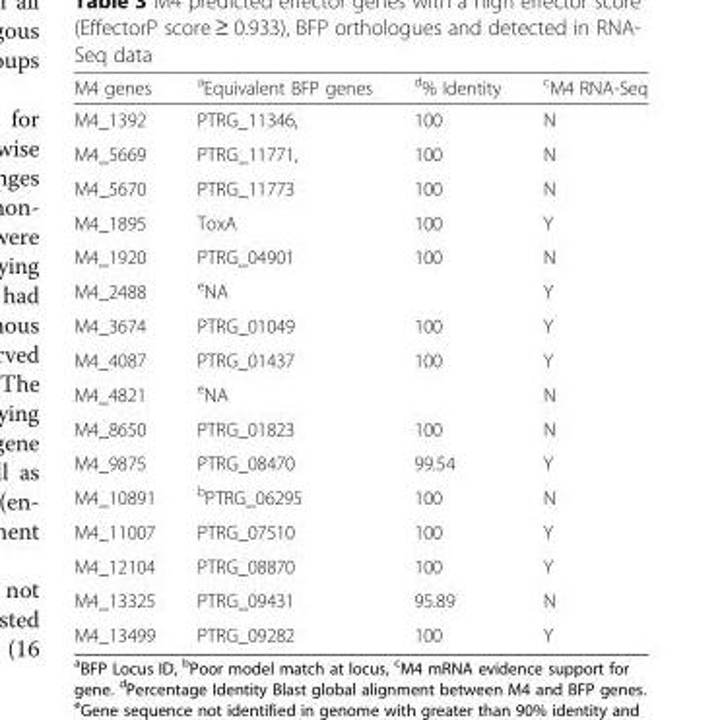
<table><thead><tr><td>M4 genes</td><td><sup>a</sup>Equivalent BFP genes</td><td><sup>d</sup>% Identity</td><td><sup>c</sup>M4 RNA-Seq</td></tr></thead><tbody><tr><td>M4_1392</td><td>PTRG_11346,</td><td>100</td><td>N</td></tr><tr><td>M4_5669</td><td>PTRG_11771,</td><td>100</td><td>N</td></tr><tr><td>M4_5670</td><td>PTRG_11773</td><td>100</td><td>N</td></tr><tr><td>M4_1895</td><td>ToxA</td><td>100</td><td>Y</td></tr><tr><td>M4_1920</td><td>PTRG_04901</td><td>100</td><td>N</td></tr><tr><td>M4_2488</td><td><sup>e</sup>NA</td><td></td><td>Y</td></tr><tr><td>M4_3674</td><td>PTRG_01049</td><td>100</td><td>Y</td></tr><tr><td>M4_4087</td><td>PTRG_01437</td><td>100</td><td>Y</td></tr><tr><td>M4_4821</td><td><sup>e</sup>NA</td><td></td><td>N</td></tr><tr><td>M4_8650</td><td>PTRG_01823</td><td>100</td><td>N</td></tr><tr><td>M4_9875</td><td>PTRG_08470</td><td>99.54</td><td>Y</td></tr><tr><td>M4_10891</td><td><sup>b</sup>PTRG_06295</td><td>100</td><td>N</td></tr><tr><td>M4_11007</td><td>PTRG_07510</td><td>100</td><td>Y</td></tr><tr><td>M4_12104</td><td>PTRG_08870</td><td>100</td><td>Y</td></tr><tr><td>M4_13325</td><td>PTRG_09431</td><td>95.89</td><td>N</td></tr><tr><td>M4_13499</td><td>PTRG_09282</td><td>100</td><td>Y</td></tr></tbody></table>